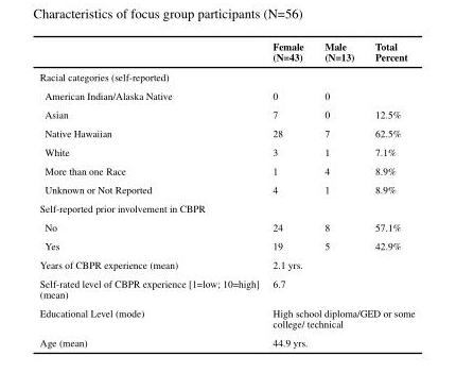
<table><thead><tr><td></td><td>Female (N=43)</td><td>Male (N=13)</td><td>Total Percent</td></tr></thead><tbody><tr><td colspan="4">Racial categories (self-reported)</td></tr><tr><td>American Indian/Alaska Native</td><td>0</td><td>0</td><td></td></tr><tr><td>Asian</td><td>7</td><td>0</td><td>12.5%</td></tr><tr><td>Native Hawaiian</td><td>28</td><td>7</td><td>62.5%</td></tr><tr><td>White</td><td>3</td><td>1</td><td>7.1%</td></tr><tr><td>More than one Race</td><td>1</td><td>4</td><td>8.9%</td></tr><tr><td>Unknown or Not Reported</td><td>4</td><td>1</td><td>8.9%</td></tr><tr><td colspan="4">Self-reported prior involvement in CBPR</td></tr><tr><td>No</td><td>24</td><td>8</td><td>57.1%</td></tr><tr><td>Yes</td><td>19</td><td>5</td><td>42.9%</td></tr><tr><td>Years of CBPR experience (mean)</td><td>2.1 yrs.</td><td></td><td></td></tr><tr><td>Self-rated level of CBPR experience [1=low; 10=high] (mean)</td><td>6.7</td><td></td><td></td></tr><tr><td>Educational Level (mode)</td><td colspan="3">High school diploma/GED or some college/ technical</td></tr><tr><td>Age (mean)</td><td colspan="3">44.9 yrs.</td></tr></tbody></table>